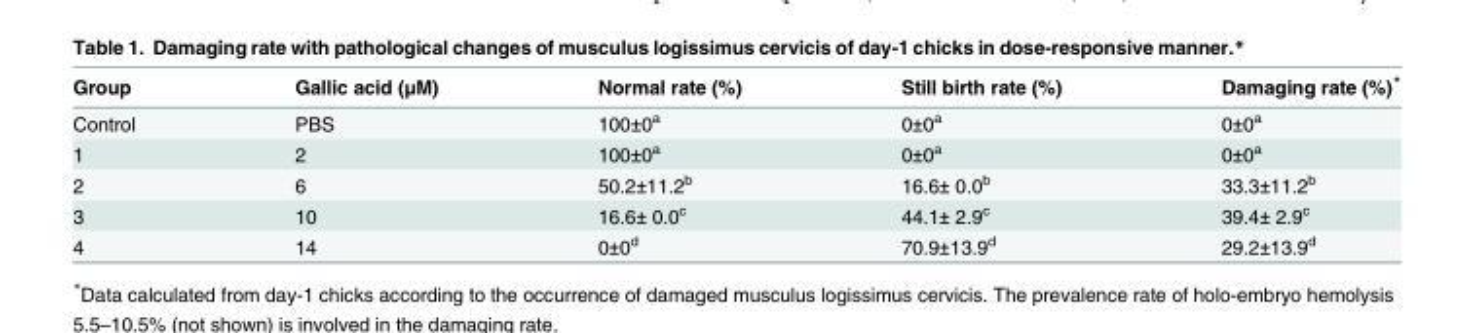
<table><thead><tr><td>Group</td><td>Gallic acid (μM)</td><td>Normal rate (%)</td><td>Still birth rate (%)</td><td>Damaging rate (%)*</td></tr></thead><tbody><tr><td>Control</td><td>PBS</td><td>100±0<sup>a</sup></td><td>0±0<sup>a</sup></td><td>0±0<sup>a</sup></td></tr><tr><td>1</td><td>2</td><td>100±0<sup>a</sup></td><td>0±0<sup>a</sup></td><td>0±0<sup>a</sup></td></tr><tr><td>2</td><td>6</td><td>50.2±11.2<sup>b</sup></td><td>16.6± 0.0<sup>b</sup></td><td>33.3±11.2<sup>b</sup></td></tr><tr><td>3</td><td>10</td><td>16.6± 0.0<sup>c</sup></td><td>44.1± 2.9<sup>c</sup></td><td>39.4± 2.9<sup>c</sup></td></tr><tr><td>4</td><td>14</td><td>0±0<sup>d</sup></td><td>70.9±13.9<sup>d</sup></td><td>29.2±13.9<sup>d</sup></td></tr></tbody></table>